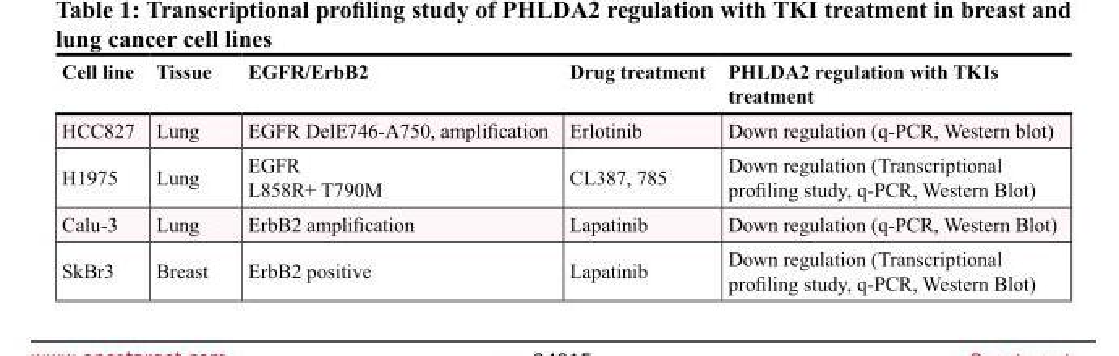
<table><thead><tr><td>Cell line</td><td>Tissue</td><td>EGFR/ErbB2</td><td>Drug treatment</td><td>PHLDA2 regulation with TKIs treatment</td></tr></thead><tbody><tr><td>HCC827</td><td>Lung</td><td>EGFR DelE746-A750, amplification</td><td>Erlotinib</td><td>Down regulation (q-PCR, Western blot)</td></tr><tr><td>H1975</td><td>Lung</td><td>EGFR L858R+ T790M</td><td>CL387, 785</td><td>Down regulation (Transcriptional profiling study, q-PCR, Western Blot)</td></tr><tr><td>Calu-3</td><td>Lung</td><td>ErbB2 amplification</td><td>Lapatinib</td><td>Down regulation (q-PCR, Western Blot)</td></tr><tr><td>SkBr3</td><td>Breast</td><td>ErbB2 positive</td><td>Lapatinib</td><td>Down regulation (Transcriptional profiling study, q-PCR, Western Blot)</td></tr></tbody></table>